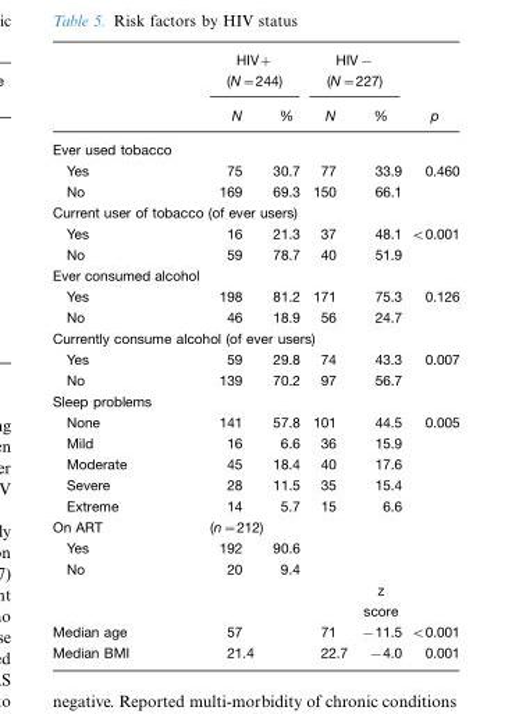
<table><thead><tr><td rowspan="2"></td><td colspan="2">HIV+ (N=244)</td><td colspan="2">HIV− (N=227)</td><td rowspan="2">p</td></tr><tr><td>N</td><td>%</td><td>N</td><td>%</td></tr></thead><tbody><tr><td colspan="6">Ever used tobacco</td></tr><tr><td>Yes</td><td>75</td><td>30.7</td><td>77</td><td>33.9</td><td>0.460</td></tr><tr><td>No</td><td>169</td><td>69.3</td><td>150</td><td>66.1</td><td></td></tr><tr><td colspan="6">Current user of tobacco (of ever users)</td></tr><tr><td>Yes</td><td>16</td><td>21.3</td><td>37</td><td>48.1</td><td>&lt;0.001</td></tr><tr><td>No</td><td>59</td><td>78.7</td><td>40</td><td>51.9</td><td></td></tr><tr><td colspan="6">Ever consumed alcohol</td></tr><tr><td>Yes</td><td>198</td><td>81.2</td><td>171</td><td>75.3</td><td>0.126</td></tr><tr><td>No</td><td>46</td><td>18.9</td><td>56</td><td>24.7</td><td></td></tr><tr><td colspan="6">Currently consume alcohol (of ever users)</td></tr><tr><td>Yes</td><td>59</td><td>29.8</td><td>74</td><td>43.3</td><td>0.007</td></tr><tr><td>No</td><td>139</td><td>70.2</td><td>97</td><td>56.7</td><td></td></tr><tr><td colspan="6">Sleep problems</td></tr><tr><td>None</td><td>141</td><td>57.8</td><td>101</td><td>44.5</td><td>0.005</td></tr><tr><td>Mild</td><td>16</td><td>6.6</td><td>36</td><td>15.9</td><td></td></tr><tr><td>Moderate</td><td>45</td><td>18.4</td><td>40</td><td>17.6</td><td></td></tr><tr><td>Severe</td><td>28</td><td>11.5</td><td>35</td><td>15.4</td><td></td></tr><tr><td>Extreme</td><td>14</td><td>5.7</td><td>15</td><td>6.6</td><td></td></tr><tr><td>On ART</td><td>(n=212)</td><td></td><td></td><td></td><td></td></tr><tr><td>Yes</td><td>192</td><td>90.6</td><td></td><td></td><td></td></tr><tr><td rowspan="2">No</td><td>20</td><td>9.4</td><td></td><td></td><td></td></tr><tr><td></td><td></td><td></td><td>z score</td><td></td></tr><tr><td>Median age</td><td>57</td><td></td><td>71</td><td>−11.5</td><td>&lt;0.001</td></tr><tr><td>Median BMI</td><td>21.4</td><td></td><td>22.7</td><td>−4.0</td><td>0.001</td></tr></tbody></table>